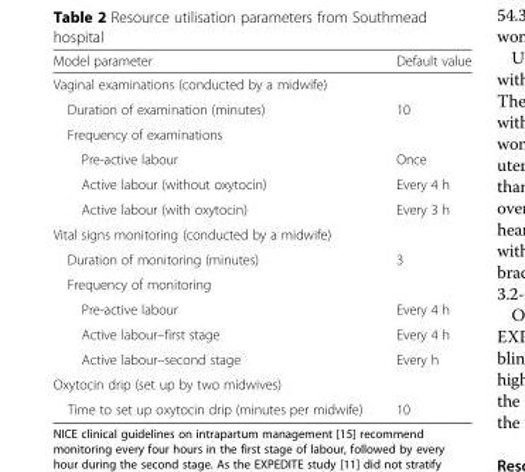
<table><thead><tr><td>Model parameter</td><td>Default value</td></tr></thead><tbody><tr><td colspan="2">Vaginal examinations (conducted by a midwife)</td></tr><tr><td>Duration of examination (minutes)</td><td>10</td></tr><tr><td colspan="2">Frequency of examinations</td></tr><tr><td>Pre-active labour</td><td>Once</td></tr><tr><td>Active labour (without oxytocin)</td><td>Every 4 h</td></tr><tr><td>Active labour (with oxytocin)</td><td>Every 3 h</td></tr><tr><td colspan="2">Vital signs monitoring (conducted by a midwife)</td></tr><tr><td>Duration of monitoring (minutes)</td><td>3</td></tr><tr><td colspan="2">Frequency of monitoring</td></tr><tr><td>Pre-active labour</td><td>Every 4 h</td></tr><tr><td>Active labour–first stage</td><td>Every 4 h</td></tr><tr><td>Active labour–second stage</td><td>Every h</td></tr><tr><td colspan="2">Oxytocin drip (set up by two midwives)</td></tr><tr><td>Time to set up oxytocin drip (minutes per midwife)</td><td>10</td></tr></tbody></table>